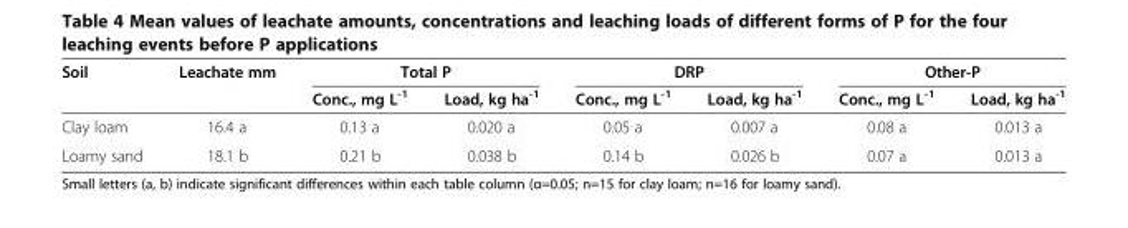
<table><thead><tr><td rowspan="2">Soil</td><td rowspan="2">Leachate mm</td><td colspan="2">Total P</td><td colspan="2">DRP</td><td colspan="2">Other-P</td></tr><tr><td>Conc., mg L<sup>-1</sup></td><td>Load, kg ha<sup>-1</sup></td><td>Conc., mg L<sup>-1</sup></td><td>Load, kg ha<sup>-1</sup></td><td>Conc., mg L<sup>-1</sup></td><td>Load, kg ha<sup>-1</sup></td></tr></thead><tbody><tr><td>Clay loam</td><td>16.4 a</td><td>0.13 a</td><td>0.020 a</td><td>0.05 a</td><td>0.007 a</td><td>0.08 a</td><td>0.013 a</td></tr><tr><td>Loamy sand</td><td>18.1 b</td><td>0.21 b</td><td>0.038 b</td><td>0.14 b</td><td>0.026 b</td><td>0.07 a</td><td>0.013 a</td></tr></tbody></table>